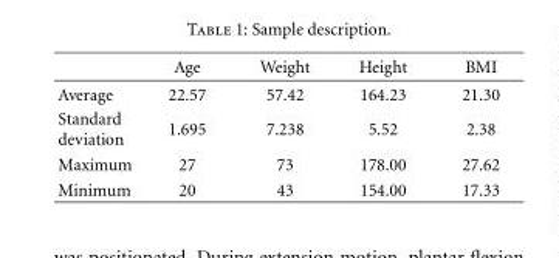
<table><thead><tr><td></td><td>Age</td><td>Weight</td><td>Height</td><td>BMI</td></tr></thead><tbody><tr><td>Average</td><td>22.57</td><td>57.42</td><td>164.23</td><td>21.30</td></tr><tr><td>Standard deviation</td><td>1.695</td><td>7.238</td><td>5.52</td><td>2.38</td></tr><tr><td>Maximum</td><td>27</td><td>73</td><td>178.00</td><td>27.62</td></tr><tr><td>Minimum</td><td>20</td><td>43</td><td>154.00</td><td>17.33</td></tr></tbody></table>